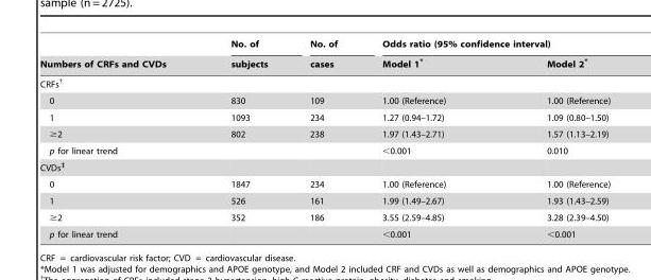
<table><thead><tr><td rowspan="2">Numbers of CRFs and CVDs</td><td rowspan="2">No. of subjects</td><td rowspan="2">No. of cases</td><td colspan="2">Odds ratio (95% confidence interval)</td></tr><tr><td>Model 1*</td><td>Model 2*</td></tr></thead><tbody><tr><td colspan="5">CRFs†</td></tr><tr><td>0</td><td>830</td><td>109</td><td>1.00 (Reference)</td><td>1.00 (Reference)</td></tr><tr><td>1</td><td>1093</td><td>234</td><td>1.27 (0.94–1.72)</td><td>1.09 (0.80–1.50)</td></tr><tr><td>≥2</td><td>802</td><td>238</td><td>1.97 (1.43–2.71)</td><td>1.57 (1.13–2.19)</td></tr><tr><td>p for linear trend</td><td></td><td></td><td>&lt;0.001</td><td>0.010</td></tr><tr><td colspan="5">CVDs‡</td></tr><tr><td>0</td><td>1847</td><td>234</td><td>1.00 (Reference)</td><td>1.00 (Reference)</td></tr><tr><td>1</td><td>526</td><td>161</td><td>1.99 (1.49–2.67)</td><td>1.93 (1.43–2.59)</td></tr><tr><td>≥2</td><td>352</td><td>186</td><td>3.55 (2.59–4.85)</td><td>3.28 (2.39–4.50)</td></tr><tr><td>p for linear trend</td><td></td><td></td><td>&lt;0.001</td><td>&lt;0.001</td></tr></tbody></table>